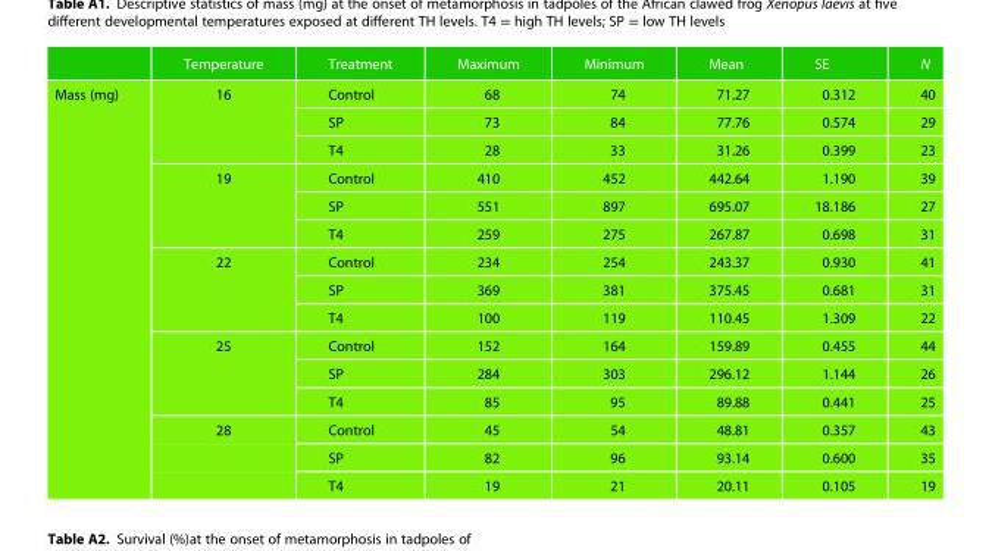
<table><thead><tr><td></td><td>Temperature</td><td>Treatment</td><td>Maximum</td><td>Minimum</td><td>Mean</td><td>SE</td><td>N</td></tr></thead><tbody><tr><td rowspan="15">Mass (mg)</td><td rowspan="3">16</td><td>Control</td><td>68</td><td>74</td><td>71.27</td><td>0.312</td><td>40</td></tr><tr><td>SP</td><td>73</td><td>84</td><td>77.76</td><td>0.574</td><td>29</td></tr><tr><td>T4</td><td>28</td><td>33</td><td>31.26</td><td>0.399</td><td>23</td></tr><tr><td rowspan="3">19</td><td>Control</td><td>410</td><td>452</td><td>442.64</td><td>1.190</td><td>39</td></tr><tr><td>SP</td><td>551</td><td>897</td><td>695.07</td><td>18.186</td><td>27</td></tr><tr><td>T4</td><td>259</td><td>275</td><td>267.87</td><td>0.698</td><td>31</td></tr><tr><td rowspan="3">22</td><td>Control</td><td>234</td><td>254</td><td>243.37</td><td>0.930</td><td>41</td></tr><tr><td>SP</td><td>369</td><td>381</td><td>375.45</td><td>0.681</td><td>31</td></tr><tr><td>T4</td><td>100</td><td>119</td><td>110.45</td><td>1.309</td><td>22</td></tr><tr><td rowspan="3">25</td><td>Control</td><td>152</td><td>164</td><td>159.89</td><td>0.455</td><td>44</td></tr><tr><td>SP</td><td>284</td><td>303</td><td>296.12</td><td>1.144</td><td>26</td></tr><tr><td>T4</td><td>85</td><td>95</td><td>89.88</td><td>0.441</td><td>25</td></tr><tr><td>28</td><td>Control</td><td>45</td><td>54</td><td>48.81</td><td>0.357</td><td>43</td></tr><tr><td></td><td>SP</td><td>82</td><td>96</td><td>93.14</td><td>0.600</td><td>35</td></tr><tr><td></td><td>T4</td><td>19</td><td>21</td><td>20.11</td><td>0.105</td><td>19</td></tr></tbody></table>